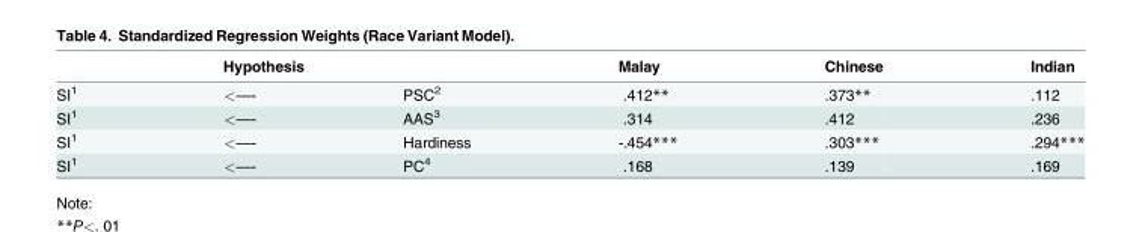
<table><thead><tr><td colspan="3">Hypothesis</td><td rowspan="2">Malay .412**</td><td rowspan="2">Chinese .373**</td><td rowspan="2">Indian .112</td></tr><tr><td>SI<sup>1</sup></td><td>&lt;—-</td><td>PSC<sup>2</sup></td></tr></thead><tbody><tr><td>SI<sup>1</sup></td><td>&lt;—-</td><td>AAS<sup>3</sup></td><td>.314</td><td>.412</td><td>.236</td></tr><tr><td>SI<sup>1</sup></td><td>&lt;—-</td><td>Hardiness</td><td>-.454***</td><td>.303***</td><td>.294***</td></tr><tr><td>SI<sup>1</sup></td><td>&lt;—-</td><td>PC<sup>4</sup></td><td>.168</td><td>.139</td><td>.169</td></tr></tbody></table>